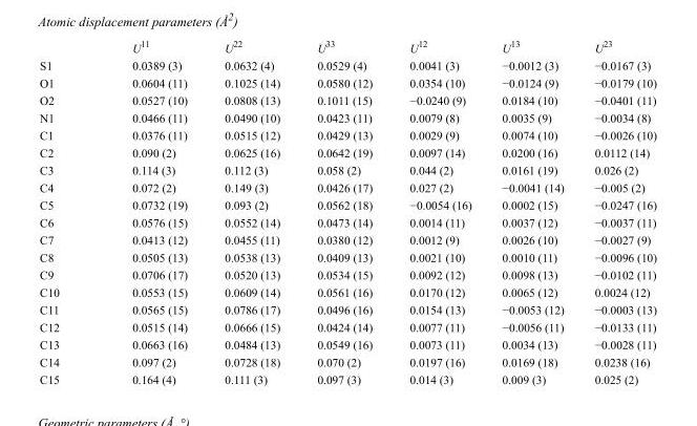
<table><thead><tr><td></td><td>U<sup>11</sup></td><td>U<sup>22</sup></td><td>U<sup>33</sup></td><td>U<sup>12</sup></td><td>U<sup>13</sup></td><td>U<sup>23</sup></td></tr></thead><tbody><tr><td>S1</td><td>0.0389 (3)</td><td>0.0632 (4)</td><td>0.0529 (4)</td><td>0.0041 (3)</td><td>−0.0012 (3)</td><td>−0.0167 (3)</td></tr><tr><td>O1</td><td>0.0604 (11)</td><td>0.1025 (14)</td><td>0.0580 (12)</td><td>0.0354 (10)</td><td>−0.0124 (9)</td><td>−0.0179 (10)</td></tr><tr><td>O2</td><td>0.0527 (10)</td><td>0.0808 (13)</td><td>0.1011 (15)</td><td>−0.0240 (9)</td><td>0.0184 (10)</td><td>−0.0401 (11)</td></tr><tr><td>N1</td><td>0.0466 (11)</td><td>0.0490 (10)</td><td>0.0423 (11)</td><td>0.0079 (8)</td><td>0.0035 (9)</td><td>−0.0034 (8)</td></tr><tr><td>C1</td><td>0.0376 (11)</td><td>0.0515 (12)</td><td>0.0429 (13)</td><td>0.0029 (9)</td><td>0.0074 (10)</td><td>−0.0026 (10)</td></tr><tr><td>C2</td><td>0.090 (2)</td><td>0.0625 (16)</td><td>0.0642 (19)</td><td>0.0097 (14)</td><td>0.0200 (16)</td><td>0.0112 (14)</td></tr><tr><td>C3</td><td>0.114 (3)</td><td>0.112 (3)</td><td>0.058 (2)</td><td>0.044 (2)</td><td>0.0161 (19)</td><td>0.026 (2)</td></tr><tr><td>C4</td><td>0.072 (2)</td><td>0.149 (3)</td><td>0.0426 (17)</td><td>0.027 (2)</td><td>−0.0041 (14)</td><td>−0.005 (2)</td></tr><tr><td>C5</td><td>0.0732 (19)</td><td>0.093 (2)</td><td>0.0562 (18)</td><td>−0.0054 (16)</td><td>0.0002 (15)</td><td>−0.0247 (16)</td></tr><tr><td>C6</td><td>0.0576 (15)</td><td>0.0552 (14)</td><td>0.0473 (14)</td><td>0.0014 (11)</td><td>0.0037 (12)</td><td>−0.0037 (11)</td></tr><tr><td>C7</td><td>0.0413 (12)</td><td>0.0455 (11)</td><td>0.0380 (12)</td><td>0.0012 (9)</td><td>0.0026 (10)</td><td>−0.0027 (9)</td></tr><tr><td>C8</td><td>0.0505 (13)</td><td>0.0538 (13)</td><td>0.0409 (13)</td><td>0.0021 (10)</td><td>0.0010 (11)</td><td>−0.0096 (10)</td></tr><tr><td>C9</td><td>0.0706 (17)</td><td>0.0520 (13)</td><td>0.0534 (15)</td><td>0.0092 (12)</td><td>0.0098 (13)</td><td>−0.0102 (11)</td></tr><tr><td>C10</td><td>0.0553 (15)</td><td>0.0609 (14)</td><td>0.0561 (16)</td><td>0.0170 (12)</td><td>0.0065 (12)</td><td>0.0024 (12)</td></tr><tr><td>C11</td><td>0.0565 (15)</td><td>0.0786 (17)</td><td>0.0496 (16)</td><td>0.0154 (13)</td><td>−0.0053 (12)</td><td>−0.0003 (13)</td></tr><tr><td>C12</td><td>0.0515 (14)</td><td>0.0666 (15)</td><td>0.0424 (14)</td><td>0.0077 (11)</td><td>−0.0056 (11)</td><td>−0.0133 (11)</td></tr><tr><td>C13</td><td>0.0663 (16)</td><td>0.0484 (13)</td><td>0.0549 (16)</td><td>0.0073 (11)</td><td>0.0034 (13)</td><td>−0.0028 (11)</td></tr><tr><td>C14</td><td>0.097 (2)</td><td>0.0728 (18)</td><td>0.070 (2)</td><td>0.0197 (16)</td><td>0.0169 (18)</td><td>0.0238 (16)</td></tr><tr><td>C15</td><td>0.164 (4)</td><td>0.111 (3)</td><td>0.097 (3)</td><td>0.014 (3)</td><td>0.009 (3)</td><td>0.025 (2)</td></tr></tbody></table>